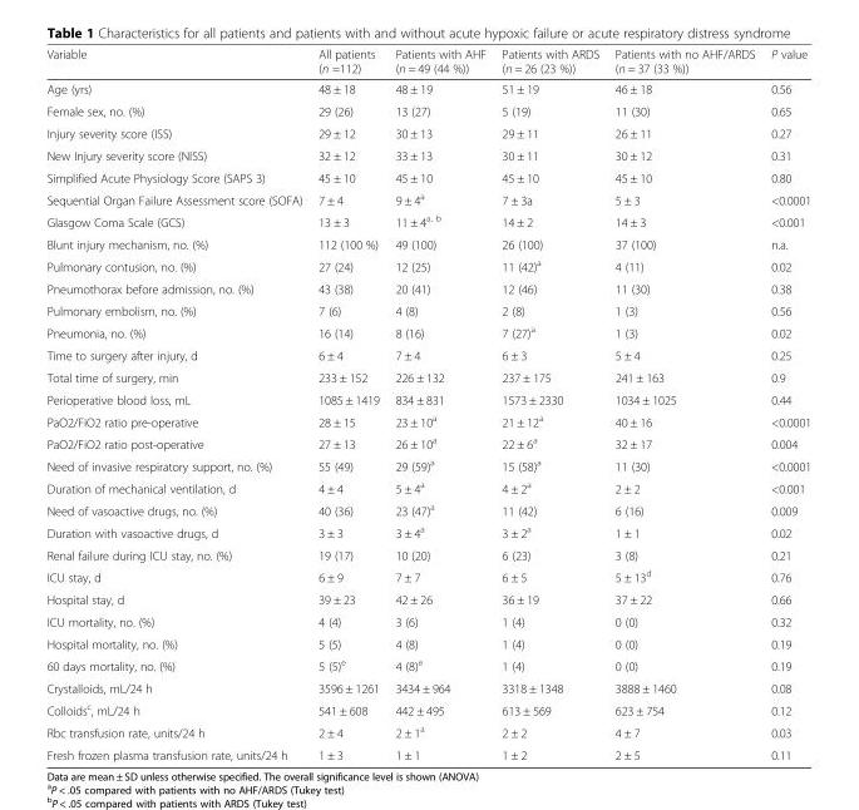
<table><thead><tr><td>Variable</td><td>All patients (n =112)</td><td>Patients with AHF (n = 49 (44 %))</td><td>Patients with ARDS (n = 26 (23 %))</td><td>Patients with no AHF/ARDS (n = 37 (33 %))</td><td>P value</td></tr></thead><tbody><tr><td>Age (yrs)</td><td>48 ± 18</td><td>48 ± 19</td><td>51 ± 19</td><td>46 ± 18</td><td>0.56</td></tr><tr><td>Female sex, no. (%)</td><td>29 (26)</td><td>13 (27)</td><td>5 (19)</td><td>11 (30)</td><td>0.65</td></tr><tr><td>Injury severity score (ISS)</td><td>29 ± 12</td><td>30 ± 13</td><td>29 ± 11</td><td>26 ± 11</td><td>0.27</td></tr><tr><td>New Injury severity score (NISS)</td><td>32 ± 12</td><td>33 ± 13</td><td>30 ± 11</td><td>30 ± 12</td><td>0.31</td></tr><tr><td>Simplified Acute Physiology Score (SAPS 3)</td><td>45 ± 10</td><td>45 ± 10</td><td>45 ± 10</td><td>45 ± 10</td><td>0.80</td></tr><tr><td>Sequential Organ Failure Assessment score (SOFA)</td><td>7 ± 4</td><td>9 ± 4<sup>a</sup></td><td>7 ± 3a</td><td>5 ± 3</td><td>&lt;0.0001</td></tr><tr><td>Glasgow Coma Scale (GCS)</td><td>13 ± 3</td><td>11 ± 4<sup>a, b</sup></td><td>14 ± 2</td><td>14 ± 3</td><td>&lt;0.001</td></tr><tr><td>Blunt injury mechanism, no. (%)</td><td>112 (100 %)</td><td>49 (100)</td><td>26 (100)</td><td>37 (100)</td><td>n.a.</td></tr><tr><td>Pulmonary contusion, no. (%)</td><td>27 (24)</td><td>12 (25)</td><td>11 (42)<sup>a</sup></td><td>4 (11)</td><td>0.02</td></tr><tr><td>Pneumothorax before admission, no. (%)</td><td>43 (38)</td><td>20 (41)</td><td>12 (46)</td><td>11 (30)</td><td>0.38</td></tr><tr><td>Pulmonary embolism, no. (%)</td><td>7 (6)</td><td>4 (8)</td><td>2 (8)</td><td>1 (3)</td><td>0.56</td></tr><tr><td>Pneumonia, no. (%)</td><td>16 (14)</td><td>8 (16)</td><td>7 (27)<sup>a</sup></td><td>1 (3)</td><td>0.02</td></tr><tr><td>Time to surgery after injury, d</td><td>6 ± 4</td><td>7 ± 4</td><td>6 ± 3</td><td>5 ± 4</td><td>0.25</td></tr><tr><td>Total time of surgery, min</td><td>233 ± 152</td><td>226 ± 132</td><td>237 ± 175</td><td>241 ± 163</td><td>0.9</td></tr><tr><td>Perioperative blood loss, mL</td><td>1085 ± 1419</td><td>834 ± 831</td><td>1573 ± 2330</td><td>1034 ± 1025</td><td>0.44</td></tr><tr><td>PaO2/FiO2 ratio pre-operative</td><td>28 ± 15</td><td>23 ± 10<sup>a</sup></td><td>21 ± 12<sup>a</sup></td><td>40 ± 16</td><td>&lt;0.0001</td></tr><tr><td>PaO2/FiO2 ratio post-operative</td><td>27 ± 13</td><td>26 ± 10<sup>a</sup></td><td>22 ± 6<sup>a</sup></td><td>32 ± 17</td><td>0.004</td></tr><tr><td>Need of invasive respiratory support, no. (%)</td><td>55 (49)</td><td>29 (59)<sup>a</sup></td><td>15 (58)<sup>a</sup></td><td>11 (30)</td><td>&lt;0.0001</td></tr><tr><td>Duration of mechanical ventilation, d</td><td>4 ± 4</td><td>5 ± 4<sup>a</sup></td><td>4 ± 2<sup>a</sup></td><td>2 ± 2</td><td>&lt;0.001</td></tr><tr><td>Need of vasoactive drugs, no. (%)</td><td>40 (36)</td><td>23 (47)<sup>a</sup></td><td>11 (42)</td><td>6 (16)</td><td>0.009</td></tr><tr><td>Duration with vasoactive drugs, d</td><td>3 ± 3</td><td>3 ± 4<sup>a</sup></td><td>3 ± 2<sup>a</sup></td><td>1 ± 1</td><td>0.02</td></tr><tr><td>Renal failure during ICU stay, no. (%)</td><td>19 (17)</td><td>10 (20)</td><td>6 (23)</td><td>3 (8)</td><td>0.21</td></tr><tr><td>ICU stay, d</td><td>6 ± 9</td><td>7 ± 7</td><td>6 ± 5</td><td>5 ± 13<sup>d</sup></td><td>0.76</td></tr><tr><td>Hospital stay, d</td><td>39 ± 23</td><td>42 ± 26</td><td>36 ± 19</td><td>37 ± 22</td><td>0.66</td></tr><tr><td>ICU mortality, no. (%)</td><td>4 (4)</td><td>3 (6)</td><td>1 (4)</td><td>0 (0)</td><td>0.32</td></tr><tr><td>Hospital mortality, no. (%)</td><td>5 (5)</td><td>4 (8)</td><td>1 (4)</td><td>0 (0)</td><td>0.19</td></tr><tr><td>60 days mortality, no. (%)</td><td>5 (5)<sup>e</sup></td><td>4 (8)<sup>e</sup></td><td>1 (4)</td><td>0 (0)</td><td>0.19</td></tr><tr><td>Crystalloids, mL/24 h</td><td>3596 ± 1261</td><td>3434 ± 964</td><td>3318 ± 1348</td><td>3888 ± 1460</td><td>0.08</td></tr><tr><td>Colloids<sup>c</sup>, mL/24 h</td><td>541 ± 608</td><td>442 ± 495</td><td>613 ± 569</td><td>623 ± 754</td><td>0.12</td></tr><tr><td>Rbc transfusion rate, units/24 h</td><td>2 ± 4</td><td>2 ± 1<sup>a</sup></td><td>2 ± 2</td><td>4 ± 7</td><td>0.03</td></tr><tr><td>Fresh frozen plasma transfusion rate, units/24 h</td><td>1 ± 3</td><td>1 ± 1</td><td>1 ± 2</td><td>2 ± 5</td><td>0.11</td></tr></tbody></table>